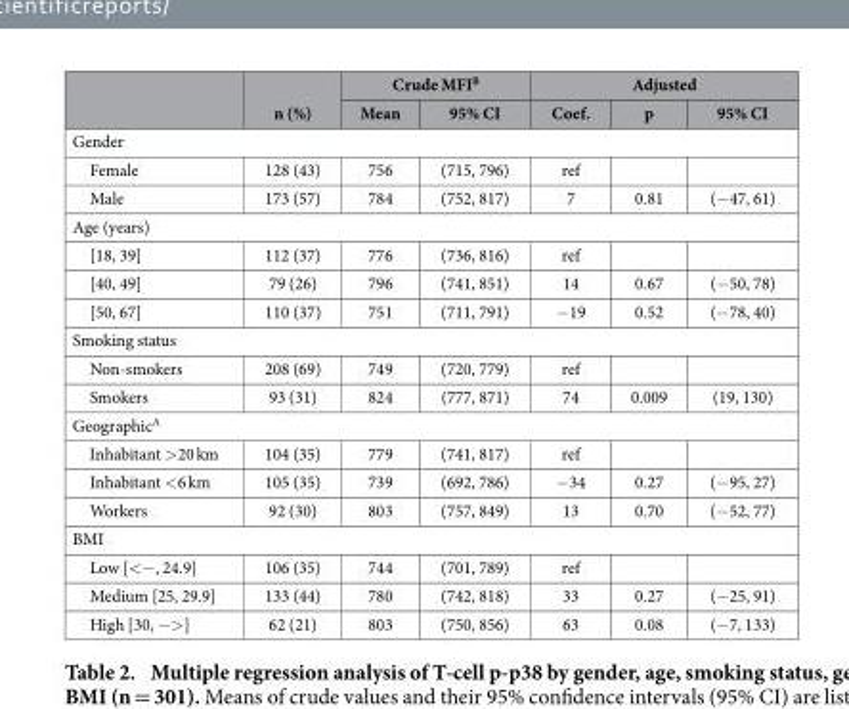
<table><thead><tr><td rowspan="2"></td><td rowspan="2">n (%)</td><td colspan="2">Crude MFI<sup>B</sup></td><td colspan="3">Adjusted</td></tr><tr><td>Mean</td><td>95% CI</td><td>Coef.</td><td>p</td><td>95% CI</td></tr></thead><tbody><tr><td colspan="7">Gender</td></tr><tr><td>Female</td><td>128 (43)</td><td>756</td><td>(715, 796)</td><td>ref</td><td></td><td></td></tr><tr><td>Male</td><td>173 (57)</td><td>784</td><td>(752, 817)</td><td>7</td><td>0.81</td><td>(− 47, 61)</td></tr><tr><td colspan="7">Age (years)</td></tr><tr><td>[18, 39]</td><td>112 (37)</td><td>776</td><td>(736, 816)</td><td>ref</td><td></td><td></td></tr><tr><td>[40, 49]</td><td>79 (26)</td><td>796</td><td>(741, 851)</td><td>14</td><td>0.67</td><td>(− 50, 78)</td></tr><tr><td>[50, 67]</td><td>110 (37)</td><td>751</td><td>(711, 791)</td><td>− 19</td><td>0.52</td><td>(− 78, 40)</td></tr><tr><td colspan="7">Smoking status</td></tr><tr><td>Non-smokers</td><td>208 (69)</td><td>749</td><td>(720, 779)</td><td>ref</td><td></td><td></td></tr><tr><td>Smokers</td><td>93 (31)</td><td>824</td><td>(777, 871)</td><td>74</td><td>0.009</td><td>(19, 130)</td></tr><tr><td colspan="7">Geographic<sup>A</sup></td></tr><tr><td>Inhabitant &gt; 20 km</td><td>104 (35)</td><td>779</td><td>(741, 817)</td><td>ref</td><td></td><td></td></tr><tr><td>Inhabitant &lt; 6 km</td><td>105 (35)</td><td>739</td><td>(692, 786)</td><td>− 34</td><td>0.27</td><td>(− 95, 27)</td></tr><tr><td>Workers</td><td>92 (30)</td><td>803</td><td>(757, 849)</td><td>13</td><td>0.70</td><td>(− 52, 77)</td></tr><tr><td colspan="7">BMI</td></tr><tr><td>Low [&lt; − , 24.9]</td><td>106 (35)</td><td>744</td><td>(701, 789)</td><td>ref</td><td></td><td></td></tr><tr><td>Medium [25, 29.9]</td><td>133 (44)</td><td>780</td><td>(742, 818)</td><td>33</td><td>0.27</td><td>(− 25, 91)</td></tr><tr><td>High [30, − &gt; ]</td><td>62 (21)</td><td>803</td><td>(750, 856)</td><td>63</td><td>0.08</td><td>(− 7, 133)</td></tr></tbody></table>